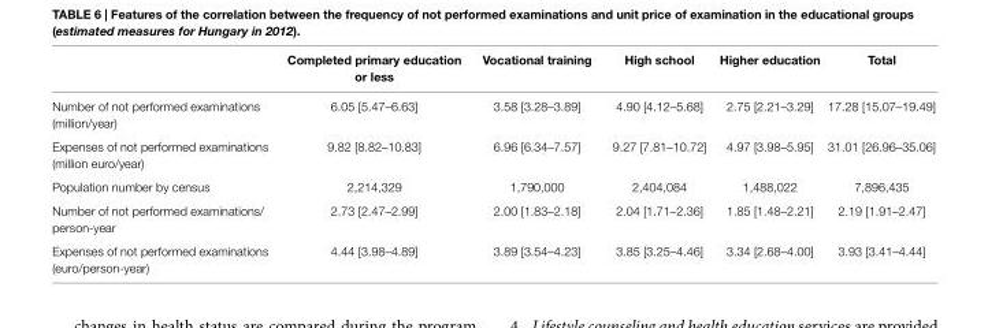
<table><thead><tr><td></td><td>completed primary education or less</td><td>Vocational training</td><td>high school</td><td>higher education</td><td>Total</td></tr></thead><tbody><tr><td>Number of not performed examinations (million/year)</td><td>6.05 [5.47–6.63]</td><td>3.58 [3.28–3.89]</td><td>4.90 [4.12–5.68]</td><td>2.75 [2.21–3.29]</td><td>17.28 [15.07–19.49]</td></tr><tr><td>Expenses of not performed examinations (million euro/year)</td><td>9.82 [8.82–10.83]</td><td>6.96 [6.34–7.57]</td><td>9.27 [7.81–10.72]</td><td>4.97 [3.98–5.95]</td><td>31.01 [26.96–35.06]</td></tr><tr><td>Population number by census</td><td>2,214,329</td><td>1,790,000</td><td>2,404,084</td><td>1,488,022</td><td>7,896,435</td></tr><tr><td>Number of not performed examinations/ person-year</td><td>2.73 [2.47–2.99]</td><td>2.00 [1.83–2.18]</td><td>2.04 [1.71–2.36]</td><td>1.85 [1.48–2.21]</td><td>2.19 [1.91–2.47]</td></tr><tr><td>Expenses of not performed examinations (euro/person-year)</td><td>4.44 [3.98–4.89]</td><td>3.89 [3.54–4.23]</td><td>3.85 [3.25–4.46]</td><td>3.34 [2.68–4.00]</td><td>3.93 [3.41–4.44]</td></tr></tbody></table>